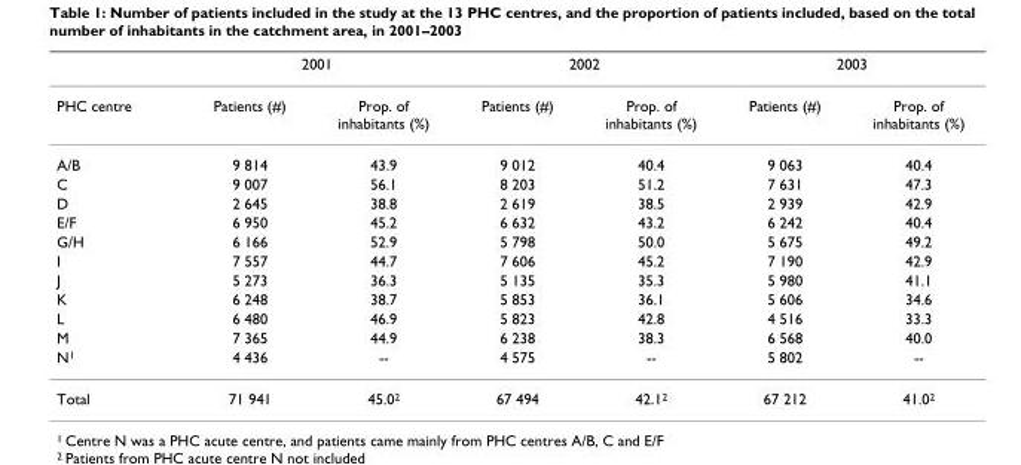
<table><thead><tr><td rowspan="2">PHC centre</td><td colspan="2">2001</td><td colspan="2">2002</td><td colspan="2">2003</td></tr><tr><td>Patients (#)</td><td>Prop. of inhabitants (%)</td><td>Patients (#)</td><td>Prop. of inhabitants (%)</td><td>Patients (#)</td><td>Prop. of inhabitants (%)</td></tr></thead><tbody><tr><td>A/B</td><td>9 814</td><td>43.9</td><td>9 012</td><td>40.4</td><td>9 063</td><td>40.4</td></tr><tr><td>C</td><td>9 007</td><td>56.1</td><td>8 203</td><td>51.2</td><td>7 631</td><td>47.3</td></tr><tr><td>D</td><td>2 645</td><td>38.8</td><td>2 619</td><td>38.5</td><td>2 939</td><td>42.9</td></tr><tr><td>E/F</td><td>6 950</td><td>45.2</td><td>6 632</td><td>43.2</td><td>6 242</td><td>40.4</td></tr><tr><td>G/H</td><td>6 166</td><td>52.9</td><td>5 798</td><td>50.0</td><td>5 675</td><td>49.2</td></tr><tr><td>I</td><td>7 557</td><td>44.7</td><td>7 606</td><td>45.2</td><td>7 190</td><td>42.9</td></tr><tr><td>J</td><td>5 273</td><td>36.3</td><td>5 135</td><td>35.3</td><td>5 980</td><td>41.1</td></tr><tr><td>K</td><td>6 248</td><td>38.7</td><td>5 853</td><td>36.1</td><td>5 606</td><td>34.6</td></tr><tr><td>L</td><td>6 480</td><td>46.9</td><td>5 823</td><td>42.8</td><td>4 516</td><td>33.3</td></tr><tr><td>M</td><td>7 365</td><td>44.9</td><td>6 238</td><td>38.3</td><td>6 568</td><td>40.0</td></tr><tr><td>N1</td><td>4 436</td><td>--</td><td>4 575</td><td>--</td><td>5 802</td><td>--</td></tr><tr><td>Total</td><td>71 941</td><td>45.02</td><td>67 494</td><td>42.12</td><td>67 212</td><td>41.02</td></tr></tbody></table>